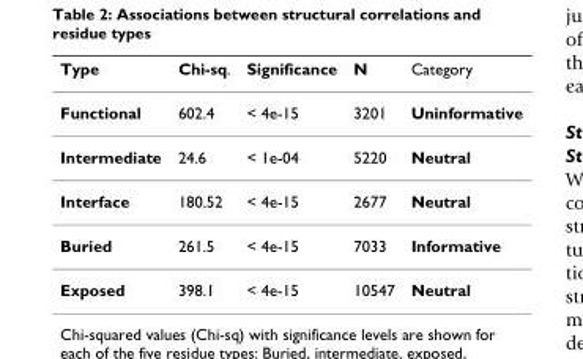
<table><thead><tr><td>Type</td><td>Chi-sq.</td><td>Significance</td><td>N</td><td>Category</td></tr></thead><tbody><tr><td>Functional</td><td>602.4</td><td>&lt; 4e-15</td><td>3201</td><td>Uninformative</td></tr><tr><td>Intermediate</td><td>24.6</td><td>&lt; 1e-04</td><td>5220</td><td>Neutral</td></tr><tr><td>Interface</td><td>180.52</td><td>&lt; 4e-15</td><td>2677</td><td>Neutral</td></tr><tr><td>Buried</td><td>261.5</td><td>&lt; 4e-15</td><td>7033</td><td>Informative</td></tr><tr><td>Exposed</td><td>398.1</td><td>&lt; 4e-15</td><td>10547</td><td>Neutral</td></tr></tbody></table>